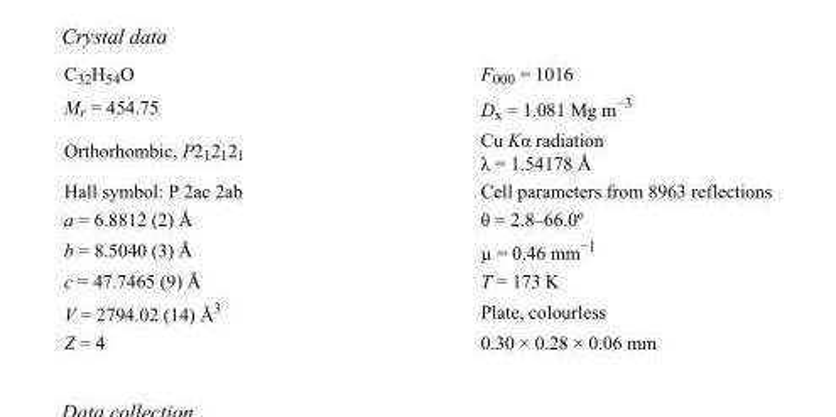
<table><tbody><tr><td>C<sub>32</sub>H<sub>54</sub>O</td><td>F000 = 1016</td></tr><tr><td>M<sub>r</sub> = 454.75</td><td>D<sub>x</sub> = 1.081 Mg m<sup>−3</sup></td></tr><tr><td>Orthorhombic, P2<sub>1</sub>2<sub>1</sub>2<sub>1</sub></td><td>Cu Kα radiation λ = 1.54178 Å</td></tr><tr><td>Hall symbol: P 2ac 2ab</td><td>Cell parameters from 8963 reflections</td></tr><tr><td>a = 6.8812 (2) Å</td><td>θ = 2.8–66.0º</td></tr><tr><td>b = 8.5040 (3) Å</td><td>µ = 0.46 mm<sup>−1</sup></td></tr><tr><td>c = 47.7465 (9) Å</td><td>T = 173 K</td></tr><tr><td>V = 2794.02 (14) Å<sup>3</sup></td><td>Plate, colourless</td></tr><tr><td>Z = 4</td><td>0.30 × 0.28 × 0.06 mm</td></tr></tbody></table>